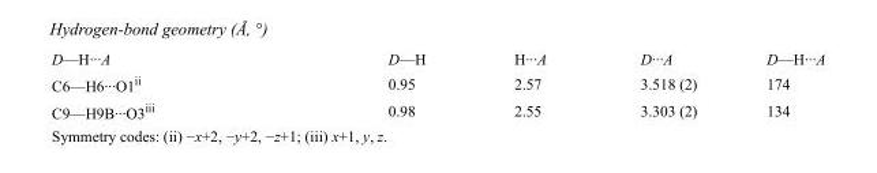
<table><tbody><tr><td>D—H···A</td><td>D—H</td><td>H···A</td><td>D···A</td><td>D—H···A</td></tr><tr><td>C6—H6···O1<sup>ii</sup></td><td>0.95</td><td>2.57</td><td>3.518 (2)</td><td>174</td></tr><tr><td>C9—H9B···O3<sup>iii</sup></td><td>0.98</td><td>2.55</td><td>3.303 (2)</td><td>134</td></tr></tbody></table>